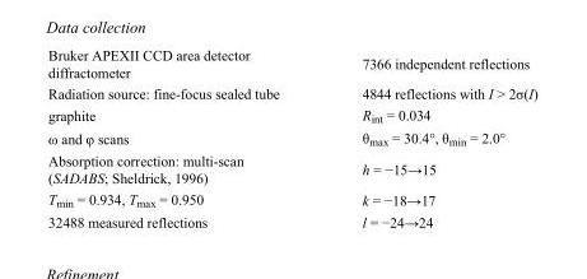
<table><tbody><tr><td>Bruker APEXII CCD area detector diffractometer</td><td>7366 independent reflections</td></tr><tr><td>Radiation source: fine-focus sealed tube</td><td>4844 reflections with I &gt; 2σ(I)</td></tr><tr><td>graphite</td><td>R<sub>int</sub> = 0.034</td></tr><tr><td>ω and φ scans</td><td>θ<sub>max</sub> = 30.4°, θ<sub>min</sub> = 2.0°</td></tr><tr><td>Absorption correction: multi-scan (SADABS; Sheldrick, 1996)</td><td>h = −15→15</td></tr><tr><td>T<sub>min</sub> = 0.934, T<sub>max</sub> = 0.950</td><td>k = −18→17</td></tr><tr><td>32488 measured reflections</td><td>l = −24→24</td></tr></tbody></table>